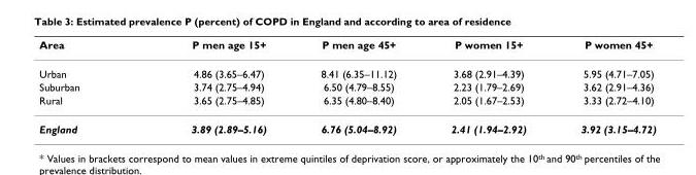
<table><thead><tr><td>Area</td><td>P men age 15+</td><td>P men age 45+</td><td>P women 15+</td><td>P women 45+</td></tr></thead><tbody><tr><td>Urban</td><td>4.86 (3.65–6.47)</td><td>8.41 (6.35–11.12)</td><td>3.68 (2.91–4.39)</td><td>5.95 (4.71–7.05)</td></tr><tr><td>Suburban</td><td>3.74 (2.75–4.94)</td><td>6.50 (4.79–8.55)</td><td>2.23 (1.79–2.69)</td><td>3.62 (2.91–4.36)</td></tr><tr><td>Rural</td><td>3.65 (2.75–4.85)</td><td>6.35 (4.80–8.40)</td><td>2.05 (1.67–2.53)</td><td>3.33 (2.72–4.10)</td></tr><tr><td>England</td><td>3.89 (2.89–5.16)</td><td>6.76 (5.04–8.92)</td><td>2.41 (1.94–2.92)</td><td>3.92 (3.15–4.72)</td></tr></tbody></table>